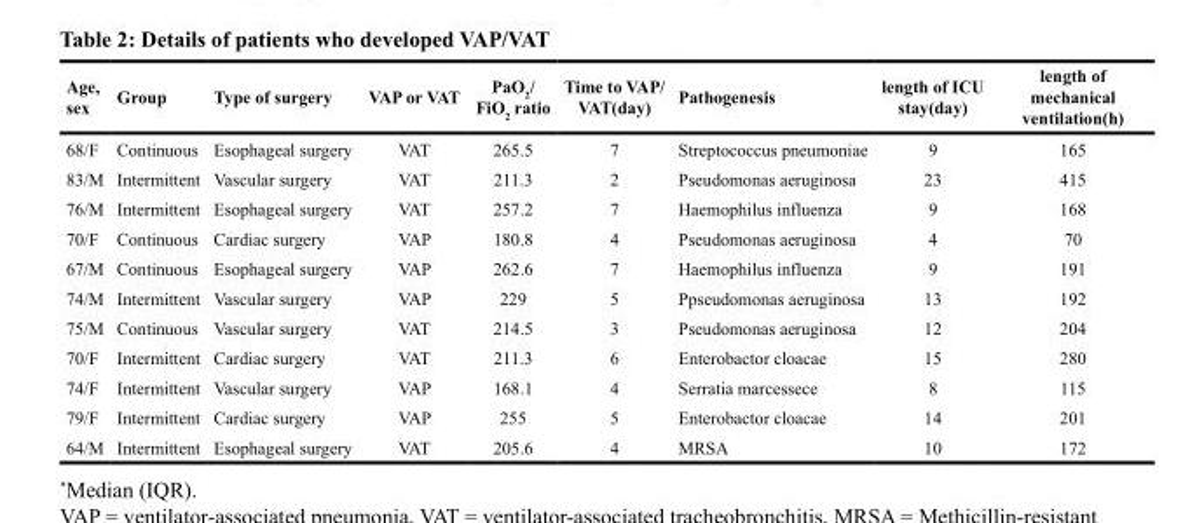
<table><thead><tr><td>Age, sex</td><td>Group</td><td>Type of surgery</td><td>VAP or VAT</td><td>PaO<sub>2</sub>/ FiO<sub>2</sub> ratio</td><td>Time to VAP/ VAT(day)</td><td>Pathogenesis</td><td>length of ICU stay(day)</td><td>length of mechanical ventilation(h)</td></tr></thead><tbody><tr><td>68/F</td><td>Continuous</td><td>Esophageal surgery</td><td>VAT</td><td>265.5</td><td>7</td><td>Streptococcus pneumoniae</td><td>9</td><td>165</td></tr><tr><td>83/M</td><td>Intermittent</td><td>Vascular surgery</td><td>VAT</td><td>211.3</td><td>2</td><td>Pseudomonas aeruginosa</td><td>23</td><td>415</td></tr><tr><td>76/M</td><td>Intermittent</td><td>Esophageal surgery</td><td>VAT</td><td>257.2</td><td>7</td><td>Haemophilus influenza</td><td>9</td><td>168</td></tr><tr><td>70/F</td><td>Continuous</td><td>Cardiac surgery</td><td>VAP</td><td>180.8</td><td>4</td><td>Pseudomonas aeruginosa</td><td>4</td><td>70</td></tr><tr><td>67/M</td><td>Continuous</td><td>Esophageal surgery</td><td>VAP</td><td>262.6</td><td>7</td><td>Haemophilus influenza</td><td>9</td><td>191</td></tr><tr><td>74/M</td><td>Intermittent</td><td>Vascular surgery</td><td>VAP</td><td>229</td><td>5</td><td>Ppseudomonas aeruginosa</td><td>13</td><td>192</td></tr><tr><td>75/M</td><td>Continuous</td><td>Vascular surgery</td><td>VAT</td><td>214.5</td><td>3</td><td>Pseudomonas aeruginosa</td><td>12</td><td>204</td></tr><tr><td>70/F</td><td>Intermittent</td><td>Cardiac surgery</td><td>VAT</td><td>211.3</td><td>6</td><td>Enterobactor cloacae</td><td>15</td><td>280</td></tr><tr><td>74/F</td><td>Intermittent</td><td>Vascular surgery</td><td>VAP</td><td>168.1</td><td>4</td><td>Serratia marcessece</td><td>8</td><td>115</td></tr><tr><td>79/F</td><td>Intermittent</td><td>Cardiac surgery</td><td>VAP</td><td>255</td><td>5</td><td>Enterobactor cloacae</td><td>14</td><td>201</td></tr><tr><td>64/M</td><td>Intermittent</td><td>Esophageal surgery</td><td>VAT</td><td>205.6</td><td>4</td><td>MRSA</td><td>10</td><td>172</td></tr></tbody></table>